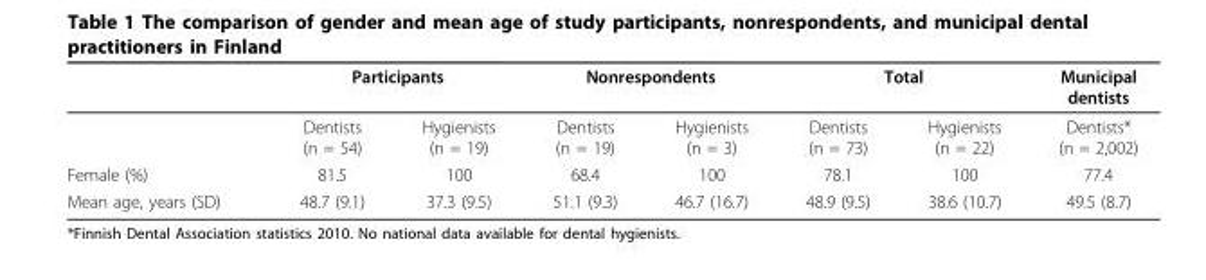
<table><thead><tr><td rowspan="2"></td><td colspan="2">Participants</td><td colspan="2">Nonrespondents</td><td colspan="2">Total</td><td rowspan="2">Municipal dentists Dentists* (n = 2,002)</td></tr><tr><td>Dentists (n = 54)</td><td>Hygienists (n = 19)</td><td>Dentists (n = 19)</td><td>Hygienists (n = 3)</td><td>Dentists (n = 73)</td><td>Hygienists (n = 22)</td></tr></thead><tbody><tr><td>Female (%)</td><td>81.5</td><td>100</td><td>68.4</td><td>100</td><td>78.1</td><td>100</td><td>77.4</td></tr><tr><td>Mean age, years (SD)</td><td>48.7 (9.1)</td><td>37.3 (9.5)</td><td>51.1 (9.3)</td><td>46.7 (16.7)</td><td>48.9 (9.5)</td><td>38.6 (10.7)</td><td>49.5 (8.7)</td></tr></tbody></table>